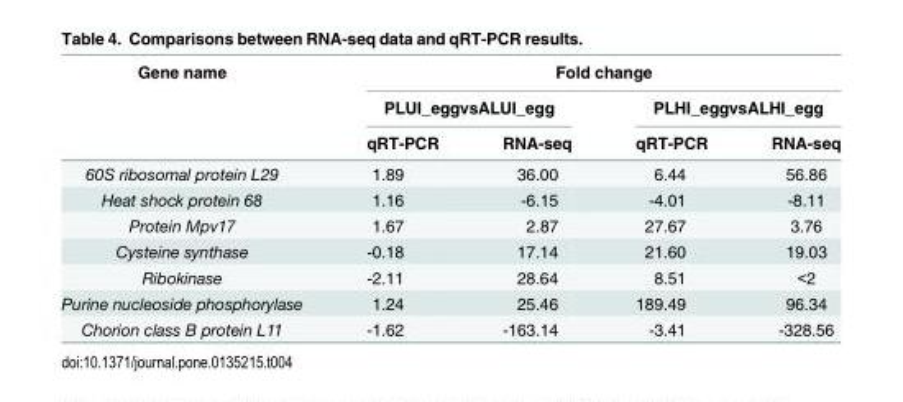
<table><thead><tr><td rowspan="3">Gene name</td><td colspan="4">Fold change</td></tr><tr><td colspan="2">PLUI_eggvsALUI_egg</td><td colspan="2">PLHI_eggvsALHI_egg</td></tr><tr><td>qRT-PCR</td><td>RNA-seq</td><td>qRT-PCR</td><td>RNA-seq</td></tr></thead><tbody><tr><td>60S ribosomal protein L29</td><td>1.89</td><td>36.00</td><td>6.44</td><td>56.86</td></tr><tr><td>Heat shock protein 68</td><td>1.16</td><td>-6.15</td><td>-4.01</td><td>-8.11</td></tr><tr><td>Protein Mpv17</td><td>1.67</td><td>2.87</td><td>27.67</td><td>3.76</td></tr><tr><td>Cysteine synthase</td><td>-0.18</td><td>17.14</td><td>21.60</td><td>19.03</td></tr><tr><td>Ribokinase</td><td>-2.11</td><td>28.64</td><td>8.51</td><td>&lt;2</td></tr><tr><td>Purine nucleoside phosphorylase</td><td>1.24</td><td>25.46</td><td>189.49</td><td>96.34</td></tr><tr><td>Chorion class B protein L11</td><td>-1.62</td><td>-163.14</td><td>-3.41</td><td>-328.56</td></tr></tbody></table>